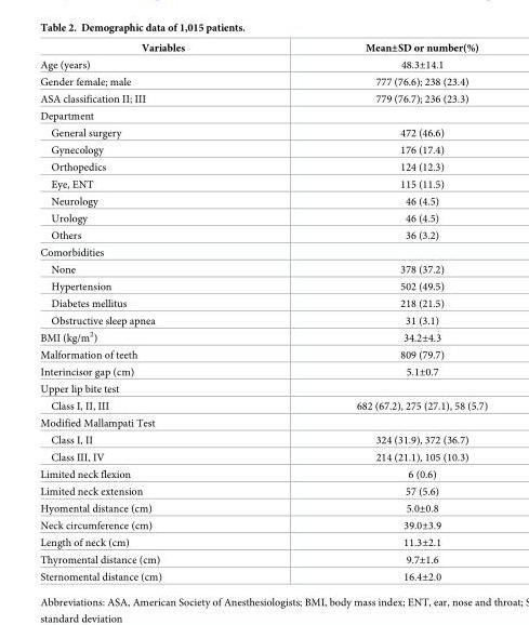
<table><thead><tr><td>Variables</td><td>Mean±SD or number(%)</td></tr></thead><tbody><tr><td>Age (years)</td><td>48.3±14.1</td></tr><tr><td>Gender female; male</td><td>777 (76.6); 238 (23.4)</td></tr><tr><td>ASA classification II; III</td><td>779 (76.7); 236 (23.3)</td></tr><tr><td colspan="2">Department</td></tr><tr><td>General surgery</td><td>472 (46.6)</td></tr><tr><td>Gynecology</td><td>176 (17.4)</td></tr><tr><td>Orthopedics</td><td>124 (12.3)</td></tr><tr><td>Eye, ENT</td><td>115 (11.5)</td></tr><tr><td>Neurology</td><td>46 (4.5)</td></tr><tr><td>Urology</td><td>46 (4.5)</td></tr><tr><td>Others</td><td>36 (3.2)</td></tr><tr><td colspan="2">Comorbidities</td></tr><tr><td>None</td><td>378 (37.2)</td></tr><tr><td>Hypertension</td><td>502 (49.5)</td></tr><tr><td>Diabetes mellitus</td><td>218 (21.5)</td></tr><tr><td>Obstructive sleep apnea</td><td>31 (3.1)</td></tr><tr><td>BMI (kg/m<sup>2</sup>)</td><td>34.2±4.3</td></tr><tr><td>Malformation of teeth</td><td>809 (79.7)</td></tr><tr><td>Interincisor gap (cm)</td><td>5.1±0.7</td></tr><tr><td colspan="2">Upper lip bite test</td></tr><tr><td>Class I, II, III</td><td>682 (67.2), 275 (27.1), 58 (5.7)</td></tr><tr><td colspan="2">Modified Mallampati Test</td></tr><tr><td>Class I, II</td><td>324 (31.9), 372 (36.7)</td></tr><tr><td>Class III, IV</td><td>214 (21.1), 105 (10.3)</td></tr><tr><td>Limited neck flexion</td><td>6 (0.6)</td></tr><tr><td>Limited neck extension</td><td>57 (5.6)</td></tr><tr><td>Hyomental distance (cm)</td><td>5.0±0.8</td></tr><tr><td>Neck circumference (cm)</td><td>39.0±3.9</td></tr><tr><td>Length of neck (cm)</td><td>11.3±2.1</td></tr><tr><td>Thyromental distance (cm)</td><td>9.7±1.6</td></tr><tr><td>Sternomental distance (cm)</td><td>16.4±2.0</td></tr></tbody></table>